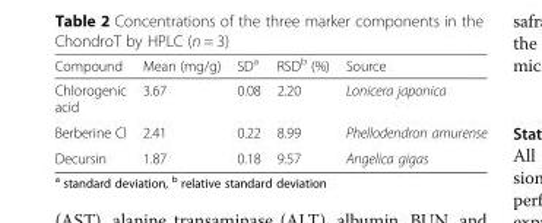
<table><thead><tr><td>Compound</td><td>Mean (mg/g)</td><td>SD<sup>a</sup></td><td>RSD<sup>b</sup> (%)</td><td>Source</td></tr></thead><tbody><tr><td>Chlorogenic acid</td><td>3.67</td><td>0.08</td><td>2.20</td><td>Lonicera japonica</td></tr><tr><td>Berberine Cl</td><td>2.41</td><td>0.22</td><td>8.99</td><td>Phellodendron amurense</td></tr><tr><td>Decursin</td><td>1.87</td><td>0.18</td><td>9.57</td><td>Angelica gigas</td></tr></tbody></table>